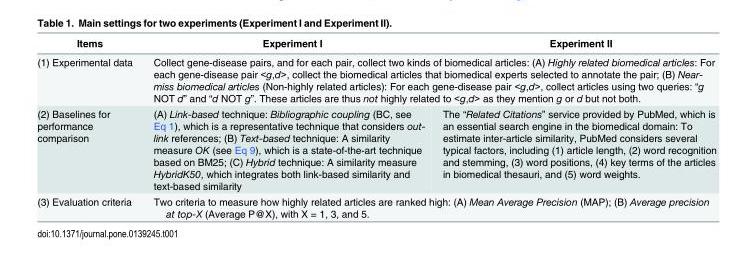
<table><thead><tr><td>Items</td><td>Experiment I</td><td>Experiment II</td></tr></thead><tbody><tr><td>(1) Experimental data</td><td colspan="2">Collect gene-disease pairs, and for each pair, collect two kinds of biomedical articles: (A) Highly related biomedical articles: For each gene-disease pair &lt;g,d&gt;, collect the biomedical articles that biomedical experts selected to annotate the pair; (B) Near- miss biomedical articles (Non-highly related articles): For each gene-disease pair &lt;g,d&gt;, collect articles using two queries: “g NOT d” and “d NOT g”. These articles are thus not highly related to &lt;g,d&gt; as they mention g or d but not both.</td></tr><tr><td>(2) Baselines for performance comparison</td><td>(A) Link-based technique: Bibliographic coupling (BC, see Eq 1), which is a representative technique that considers out- link references; (B) Text-based technique: A similarity measure OK (see Eq 9), which is a state-of-the-art technique based on BM25; (C) Hybrid technique: A similarity measure HybridK50, which integrates both link-based similarity and text-based similarity</td><td>The “Related Citations” service provided by PubMed, which is an essential search engine in the biomedical domain: To estimate inter-article similarity, PubMed considers several typical factors, including (1) article length, (2) word recognition and stemming, (3) word positions, (4) key terms of the articles in biomedical thesauri, and (5) word weights.</td></tr><tr><td>(3) Evaluation criteria</td><td colspan="2">Two criteria to measure how highly related articles are ranked high: (A) Mean Average Precision (MAP); (B) Average precision at top-X (Average P@X), with X = 1, 3, and 5.</td></tr></tbody></table>